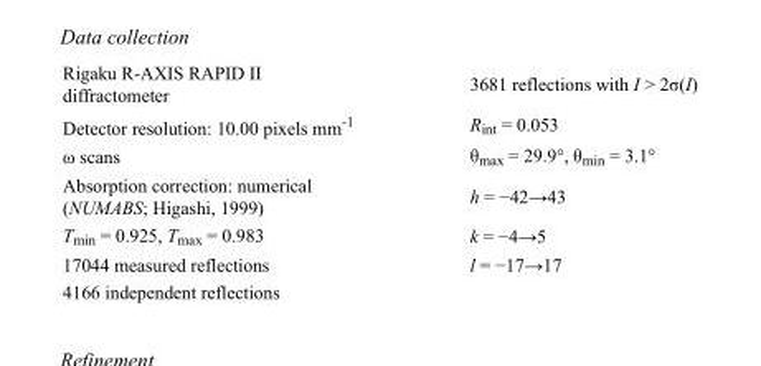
<table><tbody><tr><td>Rigaku R-AXIS RAPID II diffractometer</td><td>3681 reflections with I &gt; 2σ(I)</td></tr><tr><td>Detector resolution: 10.00 pixels mm<sup>-1</sup></td><td>R<sub>int</sub> = 0.053</td></tr><tr><td>ω scans</td><td>θ<sub>max</sub> = 29.9°, θ<sub>min</sub> = 3.1°</td></tr><tr><td>Absorption correction: numerical (NUMABS; Higashi, 1999)</td><td>h = −42→43</td></tr><tr><td>T<sub>min</sub> = 0.925, T<sub>max</sub> = 0.983</td><td>k = −4→5</td></tr><tr><td>17044 measured reflections</td><td>l = −17→17</td></tr><tr><td>4166 independent reflections</td><td></td></tr></tbody></table>